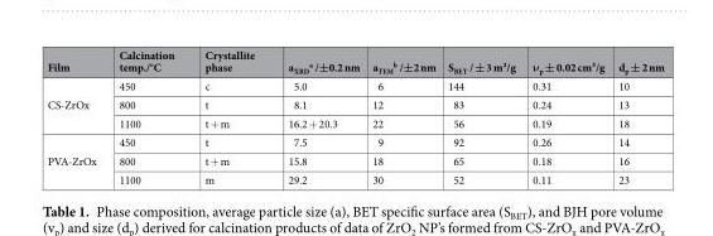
<table><thead><tr><td>Film</td><td>Calcination temp./°C</td><td>Crystallite phase</td><td>a<sub>XRD</sub> <sup>a</sup> /±0.2 nm</td><td>a<sub>TEM</sub> <sup>b</sup> /±2 nm</td><td>S<sub>BET</sub> / ± 3 m²/g</td><td>ν<sub>p</sub> ± 0.02 cm³/g</td><td>d<sub>p</sub> ± 2 nm</td></tr></thead><tbody><tr><td rowspan="3">CS-ZrOx</td><td>450</td><td>c</td><td>5.0</td><td>6</td><td>144</td><td>0.31</td><td>10</td></tr><tr><td>800</td><td>t</td><td>8.1</td><td>12</td><td>83</td><td>0.24</td><td>13</td></tr><tr><td>1100</td><td>t + m</td><td>16.2 + 20.3</td><td>22</td><td>56</td><td>0.19</td><td>18</td></tr><tr><td rowspan="3">PVA-ZrOx</td><td>450</td><td>t</td><td>7.5</td><td>9</td><td>92</td><td>0.26</td><td>14</td></tr><tr><td>800</td><td>t + m</td><td>15.8</td><td>18</td><td>65</td><td>0.18</td><td>16</td></tr><tr><td>1100</td><td>m</td><td>29.2</td><td>30</td><td>52</td><td>0.11</td><td>23</td></tr></tbody></table>